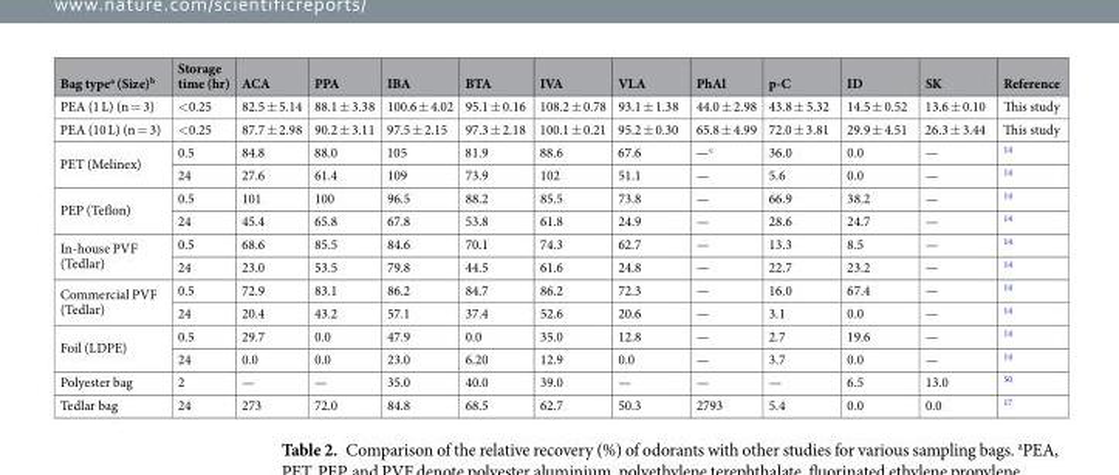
<table><thead><tr><td>Bag type<sup>a</sup> (Size)<sup>b</sup></td><td>Storage time (hr)</td><td>ACA</td><td>PPA</td><td>IBA</td><td>BTA</td><td>IVA</td><td>VLA</td><td>PhAl</td><td>p-C</td><td>ID</td><td>SK</td><td>Reference</td></tr></thead><tbody><tr><td>PEA (1 L) (n = 3)</td><td>&lt;0.25</td><td>82.5 ± 5.14</td><td>88.1 ± 3.38</td><td>100.6 ± 4.02</td><td>95.1 ± 0.16</td><td>108.2 ± 0.78</td><td>93.1 ± 1.38</td><td>44.0 ± 2.98</td><td>43.8 ± 5.32</td><td>14.5 ± 0.52</td><td>13.6 ± 0.10</td><td>This study</td></tr><tr><td>PEA (10 L) (n = 3)</td><td>&lt;0.25</td><td>87.7 ± 2.98</td><td>90.2 ± 3.11</td><td>97.5 ± 2.15</td><td>97.3 ± 2.18</td><td>100.1 ± 0.21</td><td>95.2 ± 0.30</td><td>65.8 ± 4.99</td><td>72.0 ± 3.81</td><td>29.9 ± 4.51</td><td>26.3 ± 3.44</td><td>This study</td></tr><tr><td rowspan="2">PET (Melinex)</td><td>0.5</td><td>84.8</td><td>88.0</td><td>105</td><td>81.9</td><td>88.6</td><td>67.6</td><td>—<sup>c</sup></td><td>36.0</td><td>0.0</td><td>—</td><td><sup>14</sup></td></tr><tr><td>24</td><td>27.6</td><td>61.4</td><td>109</td><td>73.9</td><td>102</td><td>51.1</td><td>—</td><td>5.6</td><td>0.0</td><td>—</td><td><sup>14</sup></td></tr><tr><td rowspan="2">PEP (Teflon)</td><td>0.5</td><td>101</td><td>100</td><td>96.5</td><td>88.2</td><td>85.5</td><td>73.8</td><td>—</td><td>66.9</td><td>38.2</td><td>—</td><td><sup>14</sup></td></tr><tr><td>24</td><td>45.4</td><td>65.8</td><td>67.8</td><td>53.8</td><td>61.8</td><td>24.9</td><td>—</td><td>28.6</td><td>24.7</td><td>—</td><td><sup>14</sup></td></tr><tr><td rowspan="2">In-house PVF (Tedlar)</td><td>0.5</td><td>68.6</td><td>85.5</td><td>84.6</td><td>70.1</td><td>74.3</td><td>62.7</td><td>—</td><td>13.3</td><td>8.5</td><td>—</td><td><sup>14</sup></td></tr><tr><td>24</td><td>23.0</td><td>53.5</td><td>79.8</td><td>44.5</td><td>61.6</td><td>24.8</td><td>—</td><td>22.7</td><td>23.2</td><td>—</td><td><sup>14</sup></td></tr><tr><td rowspan="2">Commercial PVF (Tedlar)</td><td>0.5</td><td>72.9</td><td>83.1</td><td>86.2</td><td>84.7</td><td>86.2</td><td>72.3</td><td>—</td><td>16.0</td><td>67.4</td><td>—</td><td><sup>14</sup></td></tr><tr><td>24</td><td>20.4</td><td>43.2</td><td>57.1</td><td>37.4</td><td>52.6</td><td>20.6</td><td>—</td><td>3.1</td><td>0.0</td><td>—</td><td><sup>14</sup></td></tr><tr><td rowspan="2">Foil (LDPE)</td><td>0.5</td><td>29.7</td><td>0.0</td><td>47.9</td><td>0.0</td><td>35.0</td><td>12.8</td><td>—</td><td>2.7</td><td>19.6</td><td>—</td><td><sup>14</sup></td></tr><tr><td>24</td><td>0.0</td><td>0.0</td><td>23.0</td><td>6.20</td><td>12.9</td><td>0.0</td><td>—</td><td>3.7</td><td>0.0</td><td>—</td><td><sup>14</sup></td></tr><tr><td>Polyester bag</td><td>2</td><td>—</td><td>—</td><td>35.0</td><td>40.0</td><td>39.0</td><td>—</td><td>—</td><td>—</td><td>6.5</td><td>13.0</td><td><sup>50</sup></td></tr><tr><td>Tedlar bag</td><td>24</td><td>273</td><td>72.0</td><td>84.8</td><td>68.5</td><td>62.7</td><td>50.3</td><td>2793</td><td>5.4</td><td>0.0</td><td>0.0</td><td><sup>17</sup></td></tr></tbody></table>